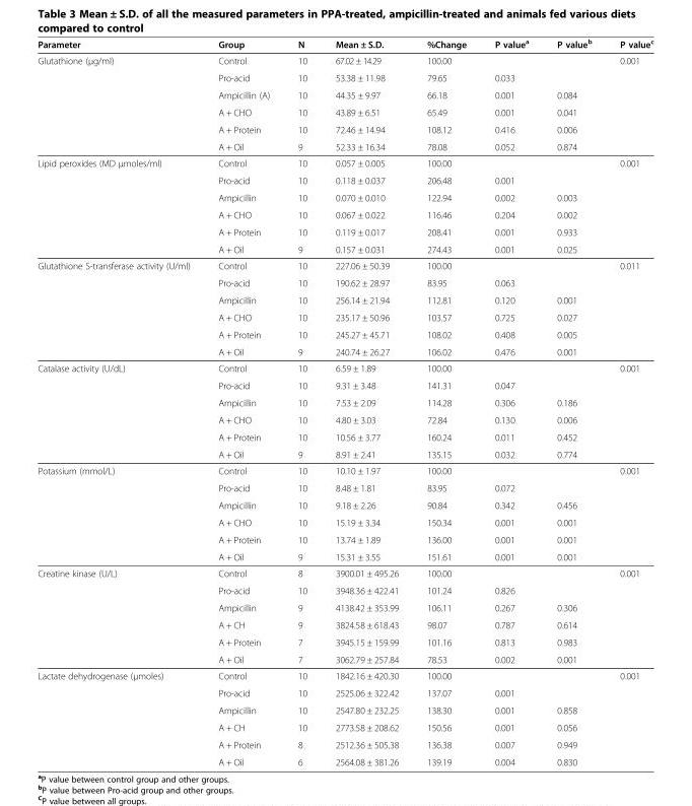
<table><thead><tr><td>Parameter</td><td>Group</td><td>N</td><td>Mean ± S.D.</td><td>%Change</td><td>P value<sup>a</sup></td><td>P value<sup>b</sup></td><td>P value<sup>c</sup></td></tr></thead><tbody><tr><td rowspan="6">Glutathione (μg/ml)</td><td>Control</td><td>10</td><td>67.02 ± 14.29</td><td>100.00</td><td></td><td rowspan="2"></td><td rowspan="6">0.001</td></tr><tr><td>Pro-acid</td><td>10</td><td>53.38 ± 11.98</td><td>79.65</td><td>0.033</td></tr><tr><td>Ampicillin (A)</td><td>10</td><td>44.35 ± 9.97</td><td>66.18</td><td>0.001</td><td>0.084</td></tr><tr><td>A + CHO</td><td>10</td><td>43.89 ± 6.51</td><td>65.49</td><td>0.001</td><td>0.041</td></tr><tr><td>A + Protein</td><td>10</td><td>72.46 ± 14.94</td><td>108.12</td><td>0.416</td><td>0.006</td></tr><tr><td>A + Oil</td><td>9</td><td>52.33 ± 16.34</td><td>78.08</td><td>0.052</td><td>0.874</td></tr><tr><td rowspan="6">Lipid peroxides (MD μmoles/ml)</td><td>Control</td><td>10</td><td>0.057 ± 0.005</td><td>100.00</td><td></td><td rowspan="2"></td><td rowspan="6">0.001</td></tr><tr><td>Pro-acid</td><td>10</td><td>0.118 ± 0.037</td><td>206.48</td><td>0.001</td></tr><tr><td>Ampicillin</td><td>10</td><td>0.070 ± 0.010</td><td>122.94</td><td>0.002</td><td>0.003</td></tr><tr><td>A + CHO</td><td>10</td><td>0.067 ± 0.022</td><td>116.46</td><td>0.204</td><td>0.002</td></tr><tr><td>A + Protein</td><td>10</td><td>0.119 ± 0.017</td><td>208.41</td><td>0.001</td><td>0.933</td></tr><tr><td>A + Oil</td><td>9</td><td>0.157 ± 0.031</td><td>274.43</td><td>0.001</td><td>0.025</td></tr><tr><td rowspan="6">Glutathione S-transferase activity (U/ml)</td><td>Control</td><td>10</td><td>227.06 ± 50.39</td><td>100.00</td><td></td><td rowspan="2"></td><td rowspan="6">0.011</td></tr><tr><td>Pro-acid</td><td>10</td><td>190.62 ± 28.97</td><td>83.95</td><td>0.063</td></tr><tr><td>Ampicillin</td><td>10</td><td>256.14 ± 21.94</td><td>112.81</td><td>0.120</td><td>0.001</td></tr><tr><td>A + CHO</td><td>10</td><td>235.17 ± 50.96</td><td>103.57</td><td>0.725</td><td>0.027</td></tr><tr><td>A + Protein</td><td>10</td><td>245.27 ± 45.71</td><td>108.02</td><td>0.408</td><td>0.005</td></tr><tr><td>A + Oil</td><td>9</td><td>240.74 ± 26.27</td><td>106.02</td><td>0.476</td><td>0.001</td></tr><tr><td rowspan="6">Catalase activity (U/dL)</td><td>Control</td><td>10</td><td>6.59 ± 1.89</td><td>100.00</td><td></td><td rowspan="2"></td><td rowspan="6">0.001</td></tr><tr><td>Pro-acid</td><td>10</td><td>9.31 ± 3.48</td><td>141.31</td><td>0.047</td></tr><tr><td>Ampicillin</td><td>10</td><td>7.53 ± 2.09</td><td>114.28</td><td>0.306</td><td>0.186</td></tr><tr><td>A + CHO</td><td>10</td><td>4.80 ± 3.03</td><td>72.84</td><td>0.130</td><td>0.006</td></tr><tr><td>A + Protein</td><td>10</td><td>10.56 ± 3.77</td><td>160.24</td><td>0.011</td><td>0.452</td></tr><tr><td>A + Oil</td><td>9</td><td>8.91 ± 2.41</td><td>135.15</td><td>0.032</td><td>0.774</td></tr><tr><td rowspan="6">Potassium (mmol/L)</td><td>Control</td><td>10</td><td>10.10 ± 1.97</td><td>100.00</td><td></td><td rowspan="2"></td><td rowspan="6">0.001</td></tr><tr><td>Pro-acid</td><td>10</td><td>8.48 ± 1.81</td><td>83.95</td><td>0.072</td></tr><tr><td>Ampicillin</td><td>10</td><td>9.18 ± 2.26</td><td>90.84</td><td>0.342</td><td>0.456</td></tr><tr><td>A + CHO</td><td>10</td><td>15.19 ± 3.34</td><td>150.34</td><td>0.001</td><td>0.001</td></tr><tr><td>A + Protein</td><td>10</td><td>13.74 ± 1.89</td><td>136.00</td><td>0.001</td><td>0.001</td></tr><tr><td>A + Oil</td><td>9</td><td>15.31 ± 3.55</td><td>151.61</td><td>0.001</td><td>0.001</td></tr><tr><td rowspan="6">Creatine kinase (U/L)</td><td>Control</td><td>8</td><td>3900.01 ± 495.26</td><td>100.00</td><td></td><td rowspan="2"></td><td rowspan="6">0.001</td></tr><tr><td>Pro-acid</td><td>10</td><td>3948.36 ± 422.41</td><td>101.24</td><td>0.826</td></tr><tr><td>Ampicillin</td><td>9</td><td>4138.42 ± 353.99</td><td>106.11</td><td>0.267</td><td>0.306</td></tr><tr><td>A + CH</td><td>9</td><td>3824.58 ± 618.43</td><td>98.07</td><td>0.787</td><td>0.614</td></tr><tr><td>A + Protein</td><td>7</td><td>3945.15 ± 159.99</td><td>101.16</td><td>0.813</td><td>0.983</td></tr><tr><td>A + Oil</td><td>7</td><td>3062.79 ± 257.84</td><td>78.53</td><td>0.002</td><td>0.001</td></tr><tr><td rowspan="6">Lactate dehydrogenase (μmoles)</td><td>Control</td><td>10</td><td>1842.16 ± 420.30</td><td>100.00</td><td></td><td rowspan="2"></td><td rowspan="6">0.001</td></tr><tr><td>Pro-acid</td><td>10</td><td>2525.06 ± 322.42</td><td>137.07</td><td>0.001</td></tr><tr><td>Ampicillin</td><td>10</td><td>2547.80 ± 232.25</td><td>138.30</td><td>0.001</td><td>0.858</td></tr><tr><td>A + CH</td><td>10</td><td>2773.58 ± 208.62</td><td>150.56</td><td>0.001</td><td>0.056</td></tr><tr><td>A + Protein</td><td>8</td><td>2512.36 ± 505.38</td><td>136.38</td><td>0.007</td><td>0.949</td></tr><tr><td>A + Oil</td><td>6</td><td>2564.08 ± 381.26</td><td>139.19</td><td>0.004</td><td>0.830</td></tr></tbody></table>